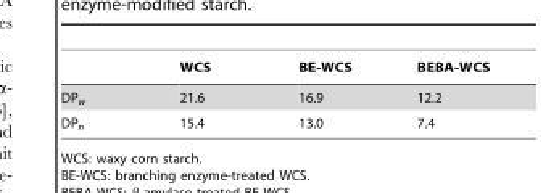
<table><thead><tr><td></td><td>WCS</td><td>BE-WCS</td><td>BEBA-WCS</td></tr></thead><tbody><tr><td>DP<sub>w</sub></td><td>21.6</td><td>16.9</td><td>12.2</td></tr><tr><td>DP<sub>n</sub></td><td>15.4</td><td>13.0</td><td>7.4</td></tr></tbody></table>